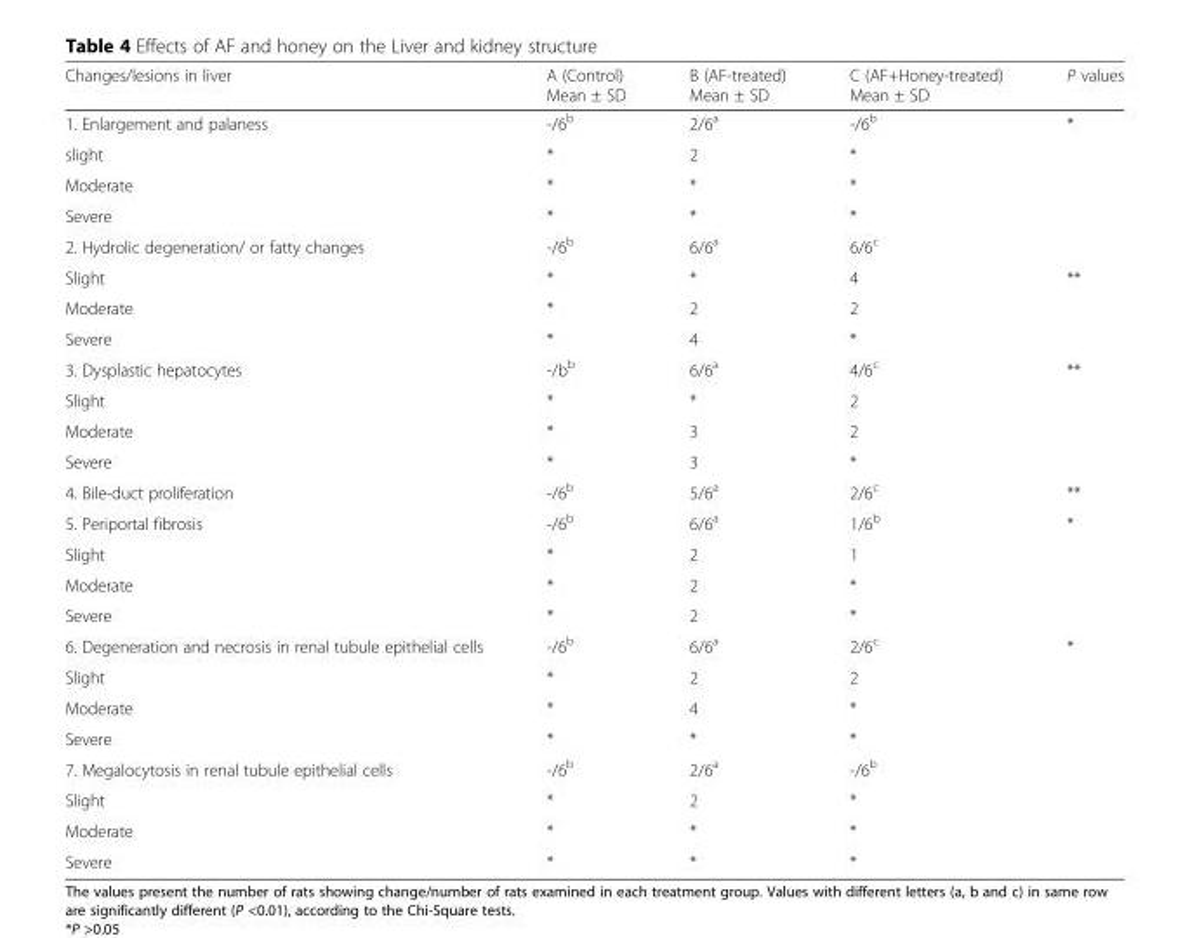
<table><thead><tr><td>Changes/lesions in liver</td><td>A (Control) Mean ± SD</td><td>B (AF-treated) Mean ± SD</td><td>C (AF+Honey-treated) Mean ± SD</td><td>P values</td></tr></thead><tbody><tr><td>1. Enlargement and palaness</td><td>-/6<sup>b</sup></td><td>2/6<sup>a</sup></td><td>-/6<sup>b</sup></td><td rowspan="4">*</td></tr><tr><td>slight</td><td>*</td><td>2</td><td>*</td></tr><tr><td>Moderate</td><td>*</td><td>*</td><td>*</td></tr><tr><td>Severe</td><td>*</td><td>*</td><td>*</td></tr><tr><td>2. Hydrolic degeneration/ or fatty changes</td><td>-/6<sup>b</sup></td><td>6/6<sup>a</sup></td><td>6/6<sup>c</sup></td><td></td></tr><tr><td>Slight</td><td>*</td><td>*</td><td>4</td><td rowspan="3">**</td></tr><tr><td>Moderate</td><td>*</td><td>2</td><td>2</td></tr><tr><td>Severe</td><td>*</td><td>4</td><td>*</td></tr><tr><td>3. Dysplastic hepatocytes</td><td>-/b<sup>b</sup></td><td>6/6<sup>a</sup></td><td>4/6<sup>c</sup></td><td rowspan="4">**</td></tr><tr><td>Slight</td><td>*</td><td>*</td><td>2</td></tr><tr><td>Moderate</td><td>*</td><td>3</td><td>2</td></tr><tr><td>Severe</td><td>*</td><td>3</td><td>*</td></tr><tr><td>4. Bile-duct proliferation</td><td>-/6<sup>b</sup></td><td>5/6<sup>a</sup></td><td>2/6<sup>c</sup></td><td>**</td></tr><tr><td>5. Periportal fibrosis</td><td>-/6<sup>b</sup></td><td>6/6<sup>a</sup></td><td>1/6<sup>b</sup></td><td rowspan="4">*</td></tr><tr><td>Slight</td><td>*</td><td>2</td><td>1</td></tr><tr><td>Moderate</td><td>*</td><td>2</td><td>*</td></tr><tr><td>Severe</td><td>*</td><td>2</td><td>*</td></tr><tr><td>6. Degeneration and necrosis in renal tubule epithelial cells</td><td>-/6<sup>b</sup></td><td>6/6<sup>a</sup></td><td>2/6<sup>c</sup></td><td rowspan="4">*</td></tr><tr><td>Slight</td><td>*</td><td>2</td><td>2</td></tr><tr><td>Moderate</td><td>*</td><td>4</td><td>*</td></tr><tr><td>Severe</td><td>*</td><td>*</td><td>*</td></tr><tr><td>7. Megalocytosis in renal tubule epithelial cells</td><td>-/6<sup>b</sup></td><td>2/6<sup>a</sup></td><td>-/6<sup>b</sup></td><td></td></tr><tr><td>Slight</td><td>*</td><td>2</td><td>*</td><td></td></tr><tr><td>Moderate</td><td>*</td><td>*</td><td>*</td><td></td></tr><tr><td>Severe</td><td>*</td><td>*</td><td>*</td><td></td></tr></tbody></table>